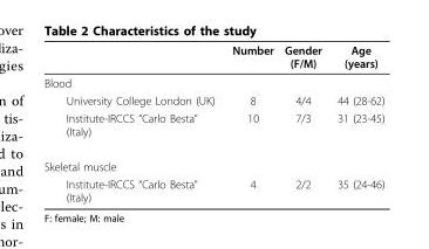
<table><thead><tr><td></td><td>Number</td><td>Gender (F/M)</td><td>Age (years)</td></tr></thead><tbody><tr><td colspan="4">Blood</td></tr><tr><td>University College London (UK)</td><td>8</td><td>4/4</td><td>44 (28-62)</td></tr><tr><td>Institute-IRCCS “Carlo Besta” (Italy)</td><td>10</td><td>7/3</td><td>31 (23-45)</td></tr><tr><td colspan="4">Skeletal muscle</td></tr><tr><td>Institute-IRCCS “Carlo Besta” (Italy)</td><td>4</td><td>2/2</td><td>35 (24-46)</td></tr></tbody></table>